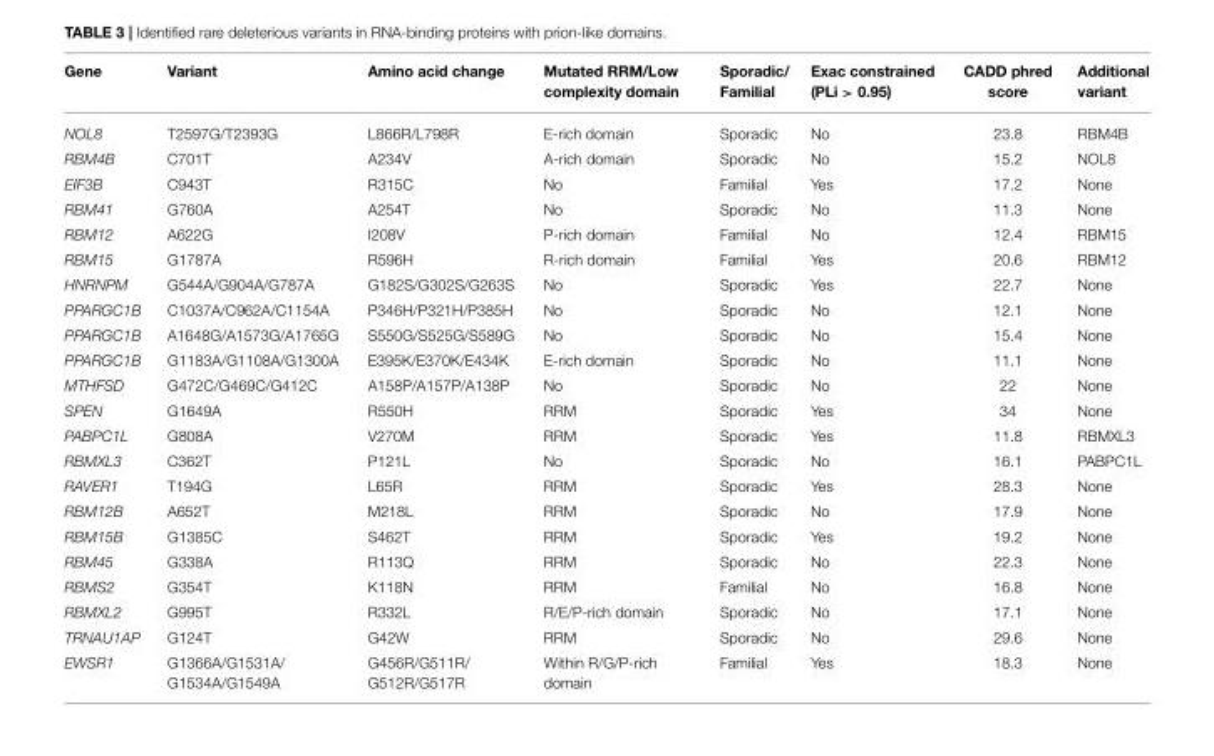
<table><thead><tr><td>Gene</td><td>Variant</td><td>Amino acid change</td><td>Mutated RRM/Low complexity domain</td><td>Sporadic/ Familial</td><td>Exac constrained (PLi &gt; 0.95)</td><td>CADD phred score</td><td>Additional variant</td></tr></thead><tbody><tr><td>NOL8</td><td>T2597G/T2393G</td><td>L866R/L798R</td><td>E-rich domain</td><td>Sporadic</td><td>No</td><td>23.8</td><td>RBM4B</td></tr><tr><td>RBM4B</td><td>C701T</td><td>A234V</td><td>A-rich domain</td><td>Sporadic</td><td>No</td><td>15.2</td><td>NOL8</td></tr><tr><td>EIF3B</td><td>C943T</td><td>R315C</td><td>No</td><td>Familial</td><td>Yes</td><td>17.2</td><td>None</td></tr><tr><td>RBM41</td><td>G760A</td><td>A254T</td><td>No</td><td>Sporadic</td><td>No</td><td>11.3</td><td>None</td></tr><tr><td>RBM12</td><td>A622G</td><td>I208V</td><td>P-rich domain</td><td>Familial</td><td>No</td><td>12.4</td><td>RBM15</td></tr><tr><td>RBM15</td><td>G1787A</td><td>R596H</td><td>R-rich domain</td><td>Familial</td><td>Yes</td><td>20.6</td><td>RBM12</td></tr><tr><td>HNRNPM</td><td>G544A/G904A/G787A</td><td>G182S/G302S/G263S</td><td>No</td><td>Sporadic</td><td>Yes</td><td>22.7</td><td>None</td></tr><tr><td>PPARGC1B</td><td>C1037A/C962A/C1154A</td><td>P346H/P321H/P385H</td><td>No</td><td>Sporadic</td><td>No</td><td>12.1</td><td>None</td></tr><tr><td>PPARGC1B</td><td>A1648G/A1573G/A1765G</td><td>S550G/S525G/S589G</td><td>No</td><td>Sporadic</td><td>No</td><td>15.4</td><td>None</td></tr><tr><td>PPARGC1B</td><td>G1183A/G1108A/G1300A</td><td>E395K/E370K/E434K</td><td>E-rich domain</td><td>Sporadic</td><td>No</td><td>11.1</td><td>None</td></tr><tr><td>MTHFSD</td><td>G472C/G469C/G412C</td><td>A158P/A157P/A138P</td><td>No</td><td>Sporadic</td><td>No</td><td>22</td><td>None</td></tr><tr><td>SPEN</td><td>G1649A</td><td>R550H</td><td>RRM</td><td>Sporadic</td><td>Yes</td><td>34</td><td>None</td></tr><tr><td>PABPC1L</td><td>G808A</td><td>V270M</td><td>RRM</td><td>Sporadic</td><td>Yes</td><td>11.8</td><td>RBMXL3</td></tr><tr><td>RBMXL3</td><td>C362T</td><td>P121L</td><td>No</td><td>Sporadic</td><td>No</td><td>16.1</td><td>PABPC1L</td></tr><tr><td>RAVER1</td><td>T194G</td><td>L65R</td><td>RRM</td><td>Sporadic</td><td>Yes</td><td>28.3</td><td>None</td></tr><tr><td>RBM12B</td><td>A652T</td><td>M218L</td><td>RRM</td><td>Sporadic</td><td>No</td><td>17.9</td><td>None</td></tr><tr><td>RBM15B</td><td>G1385C</td><td>S462T</td><td>RRM</td><td>Sporadic</td><td>Yes</td><td>19.2</td><td>None</td></tr><tr><td>RBM45</td><td>G338A</td><td>R113Q</td><td>RRM</td><td>Sporadic</td><td>No</td><td>22.3</td><td>None</td></tr><tr><td>RBMS2</td><td>G354T</td><td>K118N</td><td>RRM</td><td>Familial</td><td>No</td><td>16.8</td><td>None</td></tr><tr><td>RBMXL2</td><td>G995T</td><td>R332L</td><td>R/E/P-rich domain</td><td>Sporadic</td><td>No</td><td>17.1</td><td>None</td></tr><tr><td>TRNAU1AP</td><td>G124T</td><td>G42W</td><td>RRM</td><td>Sporadic</td><td>No</td><td>29.6</td><td>None</td></tr><tr><td>EWSR1</td><td>G1366A/G1531A/ G1534A/G1549A</td><td>G456R/G511R/ G512R/G517R</td><td>Within R/G/P-rich domain</td><td>Familial</td><td>Yes</td><td>18.3</td><td>None</td></tr></tbody></table>